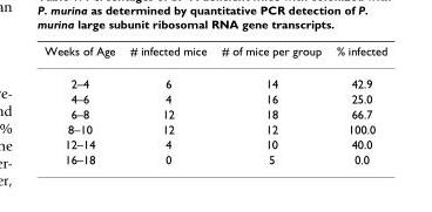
<table><thead><tr><td>Weeks of Age</td><td># infected mice</td><td># of mice per group</td><td>% infected</td></tr></thead><tbody><tr><td>2–4</td><td>6</td><td>14</td><td>42.9</td></tr><tr><td>4–6</td><td>4</td><td>16</td><td>25.0</td></tr><tr><td>6–8</td><td>12</td><td>18</td><td>66.7</td></tr><tr><td>8–10</td><td>12</td><td>12</td><td>100.0</td></tr><tr><td>12–14</td><td>4</td><td>10</td><td>40.0</td></tr><tr><td>16–18</td><td>0</td><td>5</td><td>0.0</td></tr></tbody></table>